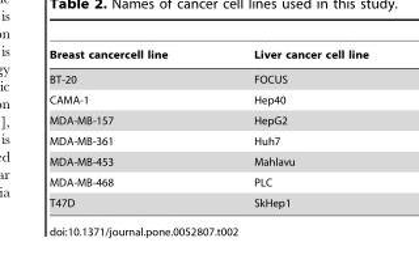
<table><thead><tr><td>Breast cancercell line</td><td>Liver cancer cell line</td></tr></thead><tbody><tr><td>BT-20</td><td>FOCUS</td></tr><tr><td>CAMA-1</td><td>Hep40</td></tr><tr><td>MDA-MB-157</td><td>HepG2</td></tr><tr><td>MDA-MB-361</td><td>Huh7</td></tr><tr><td>MDA-MB-453</td><td>Mahlavu</td></tr><tr><td>MDA-MB-468</td><td>PLC</td></tr><tr><td>T47D</td><td>SkHep1</td></tr></tbody></table>